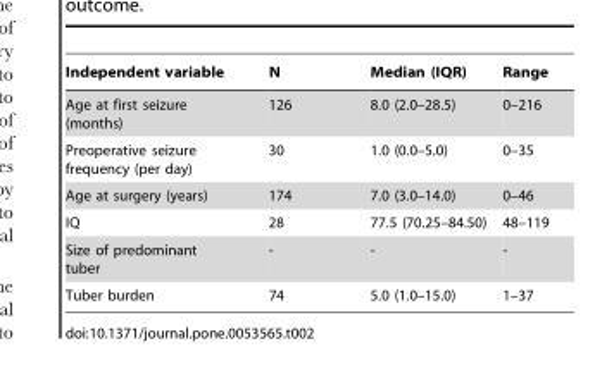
<table><thead><tr><td>Independent variable</td><td>N</td><td>Median (IQR)</td><td>Range</td></tr></thead><tbody><tr><td>Age at first seizure (months)</td><td>126</td><td>8.0 (2.0–28.5)</td><td>0–216</td></tr><tr><td>Preoperative seizure frequency (per day)</td><td>30</td><td>1.0 (0.0–5.0)</td><td>0–35</td></tr><tr><td>Age at surgery (years)</td><td>174</td><td>7.0 (3.0–14.0)</td><td>0–46</td></tr><tr><td>IQ</td><td>28</td><td>77.5 (70.25–84.50)</td><td>48–119</td></tr><tr><td>Size of predominant tuber</td><td>-</td><td>-</td><td>-</td></tr><tr><td>Tuber burden</td><td>74</td><td>5.0 (1.0–15.0)</td><td>1–37</td></tr></tbody></table>